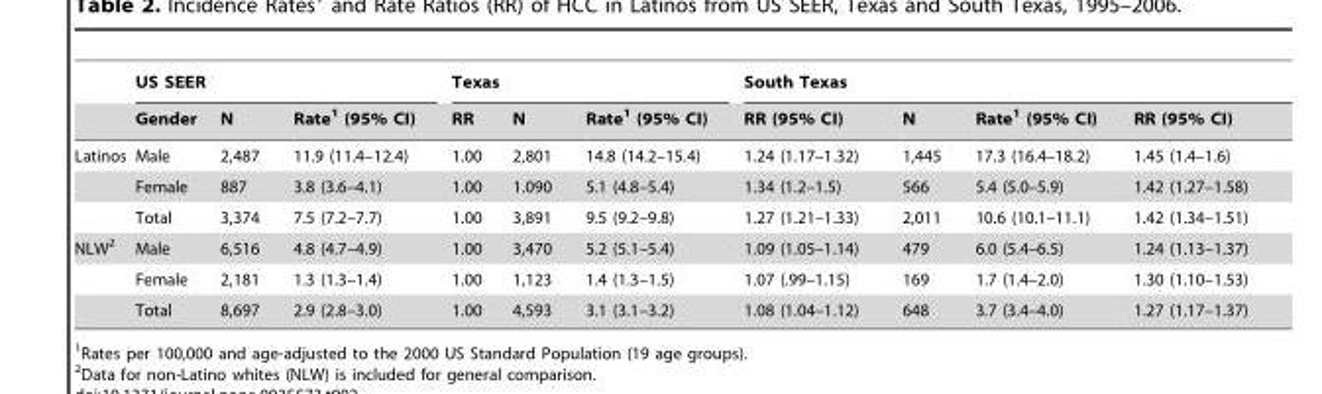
<table><thead><tr><td rowspan="2"></td><td colspan="3">US SEER</td><td colspan="3">Texas</td><td colspan="4">South Texas</td></tr><tr><td>Gender</td><td>N</td><td>Rate<sup>1</sup> (95% CI)</td><td>RR</td><td>N</td><td>Rate<sup>1</sup> (95% CI)</td><td>RR (95% CI)</td><td>N</td><td>Rate<sup>1</sup> (95% CI)</td><td>RR (95% CI)</td></tr></thead><tbody><tr><td rowspan="3">Latinos</td><td>Male</td><td>2,487</td><td>11.9 (11.4–12.4)</td><td>1.00</td><td>2,801</td><td>14.8 (14.2–15.4)</td><td>1.24 (1.17–1.32)</td><td>1,445</td><td>17.3 (16.4–18.2)</td><td>1.45 (1.4–1.6)</td></tr><tr><td>Female</td><td>887</td><td>3.8 (3.6–4.1)</td><td>1.00</td><td>1.090</td><td>5.1 (4.8–5.4)</td><td>1.34 (1.2–1.5)</td><td>566</td><td>5.4 (5.0–5.9)</td><td>1.42 (1.27–1.58)</td></tr><tr><td>Total</td><td>3,374</td><td>7.5 (7.2–7.7)</td><td>1.00</td><td>3,891</td><td>9.5 (9.2–9.8)</td><td>1.27 (1.21–1.33)</td><td>2,011</td><td>10.6 (10.1–11.1)</td><td>1.42 (1.34–1.51)</td></tr><tr><td rowspan="3">NLW<sup>2</sup></td><td>Male</td><td>6,516</td><td>4.8 (4.7–4.9)</td><td>1.00</td><td>3,470</td><td>5.2 (5.1–5.4)</td><td>1.09 (1.05–1.14)</td><td>479</td><td>6.0 (5.4–6.5)</td><td>1.24 (1.13–1.37)</td></tr><tr><td>Female</td><td>2,181</td><td>1.3 (1.3–1.4)</td><td>1.00</td><td>1,123</td><td>1.4 (1.3–1.5)</td><td>1.07 (.99–1.15)</td><td>169</td><td>1.7 (1.4–2.0)</td><td>1.30 (1.10–1.53)</td></tr><tr><td>Total</td><td>8,697</td><td>2.9 (2.8–3.0)</td><td>1.00</td><td>4,593</td><td>3.1 (3.1–3.2)</td><td>1.08 (1.04–1.12)</td><td>648</td><td>3.7 (3.4–4.0)</td><td>1.27 (1.17–1.37)</td></tr></tbody></table>